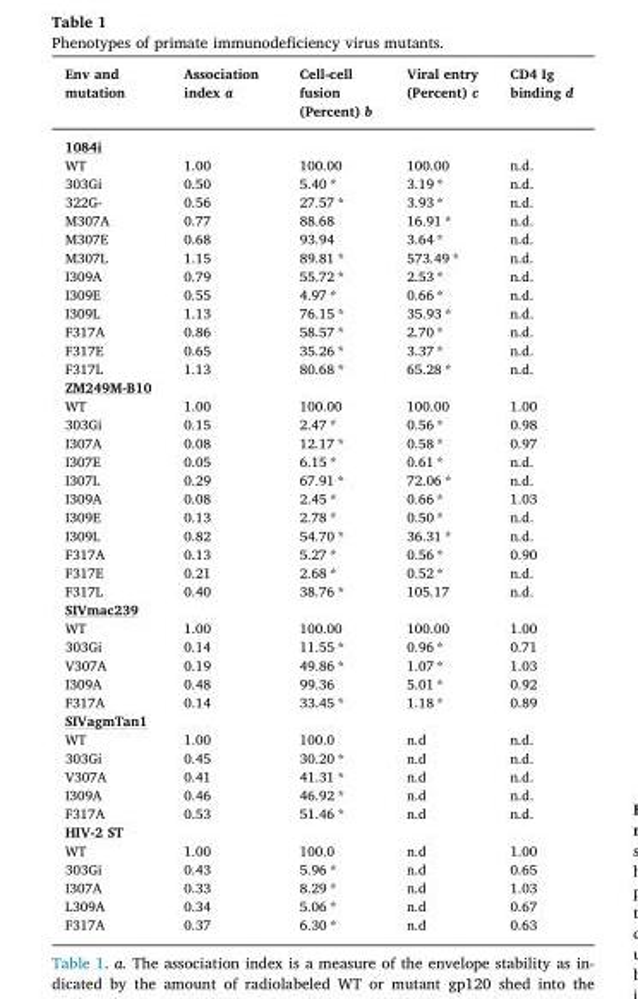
<table><thead><tr><td>Env and mutation</td><td>Association index a</td><td>Cell-cell fusion (Percent) b</td><td>Viral entry (Percent) c</td><td>CD4 Ig binding d</td></tr></thead><tbody><tr><td colspan="5">1084i</td></tr><tr><td>WT</td><td>1.00</td><td>100.00</td><td>100.00</td><td>n.d.</td></tr><tr><td>303Gi</td><td>0.50</td><td>5.40 *</td><td>3.19 *</td><td>n.d.</td></tr><tr><td>322G-</td><td>0.56</td><td>27.57 *</td><td>3.93 *</td><td>n.d.</td></tr><tr><td>M307A</td><td>0.77</td><td>88.68</td><td>16.91 *</td><td>n.d.</td></tr><tr><td>M307E</td><td>0.68</td><td>93.94</td><td>3.64 *</td><td>n.d.</td></tr><tr><td>M307L</td><td>1.15</td><td>89.81 *</td><td>573.49 *</td><td>n.d.</td></tr><tr><td>I309A</td><td>0.79</td><td>55.72 *</td><td>2.53 *</td><td>n.d.</td></tr><tr><td>I309E</td><td>0.55</td><td>4.97 *</td><td>0.66 *</td><td>n.d.</td></tr><tr><td>I309L</td><td>1.13</td><td>76.15 *</td><td>35.93 *</td><td>n.d.</td></tr><tr><td>F317A</td><td>0.86</td><td>58.57 *</td><td>2.70 *</td><td>n.d.</td></tr><tr><td>F317E</td><td>0.65</td><td>35.26 *</td><td>3.37 *</td><td>n.d.</td></tr><tr><td>F317L</td><td>1.13</td><td>80.68 *</td><td>65.28 *</td><td>n.d.</td></tr><tr><td colspan="5">ZM249M-B10</td></tr><tr><td>WT</td><td>1.00</td><td>100.00</td><td>100.00</td><td>1.00</td></tr><tr><td>303Gi</td><td>0.15</td><td>2.47 *</td><td>0.56 *</td><td>0.98</td></tr><tr><td>I307A</td><td>0.08</td><td>12.17 *</td><td>0.58 *</td><td>0.97</td></tr><tr><td>I307E</td><td>0.05</td><td>6.15 *</td><td>0.61 *</td><td>n.d.</td></tr><tr><td>I307L</td><td>0.29</td><td>67.91 *</td><td>72.06 *</td><td>n.d.</td></tr><tr><td>I309A</td><td>0.08</td><td>2.45 *</td><td>0.66 *</td><td>1.03</td></tr><tr><td>I309E</td><td>0.13</td><td>2.78 *</td><td>0.50 *</td><td>n.d.</td></tr><tr><td>I309L</td><td>0.82</td><td>54.70 *</td><td>36.31 *</td><td>n.d.</td></tr><tr><td>F317A</td><td>0.13</td><td>5.27 *</td><td>0.56 *</td><td>0.90</td></tr><tr><td>F317E</td><td>0.21</td><td>2.68 *</td><td>0.52 *</td><td>n.d.</td></tr><tr><td>F317L</td><td>0.40</td><td>38.76 *</td><td>105.17</td><td>n.d.</td></tr><tr><td colspan="5">SIVmac239</td></tr><tr><td>WT</td><td>1.00</td><td>100.00</td><td>100.00</td><td>1.00</td></tr><tr><td>303Gi</td><td>0.14</td><td>11.55 *</td><td>0.96 *</td><td>0.71</td></tr><tr><td>V307A</td><td>0.19</td><td>49.86 *</td><td>1.07 *</td><td>1.03</td></tr><tr><td>I309A</td><td>0.48</td><td>99.36</td><td>5.01 *</td><td>0.92</td></tr><tr><td>F317A</td><td>0.14</td><td>33.45 *</td><td>1.18 *</td><td>0.89</td></tr><tr><td colspan="5">SIVagmTan1</td></tr><tr><td>WT</td><td>1.00</td><td>100.0</td><td>n.d</td><td>n.d.</td></tr><tr><td>303Gi</td><td>0.45</td><td>30.20 *</td><td>n.d</td><td>n.d.</td></tr><tr><td>V307A</td><td>0.41</td><td>41.31 *</td><td>n.d</td><td>n.d.</td></tr><tr><td>I309A</td><td>0.46</td><td>46.92 *</td><td>n.d</td><td>n.d.</td></tr><tr><td>F317A</td><td>0.53</td><td>51.46 *</td><td>n.d</td><td>n.d.</td></tr><tr><td colspan="5">HIV-2 ST</td></tr><tr><td>WT</td><td>1.00</td><td>100.0</td><td>n.d</td><td>1.00</td></tr><tr><td>303Gi</td><td>0.43</td><td>5.96 *</td><td>n.d</td><td>0.65</td></tr><tr><td>I307A</td><td>0.33</td><td>8.29 *</td><td>n.d</td><td>1.03</td></tr><tr><td>L309A</td><td>0.34</td><td>5.06 *</td><td>n.d</td><td>0.67</td></tr><tr><td>F317A</td><td>0.37</td><td>6.30 *</td><td>n.d</td><td>0.63</td></tr></tbody></table>